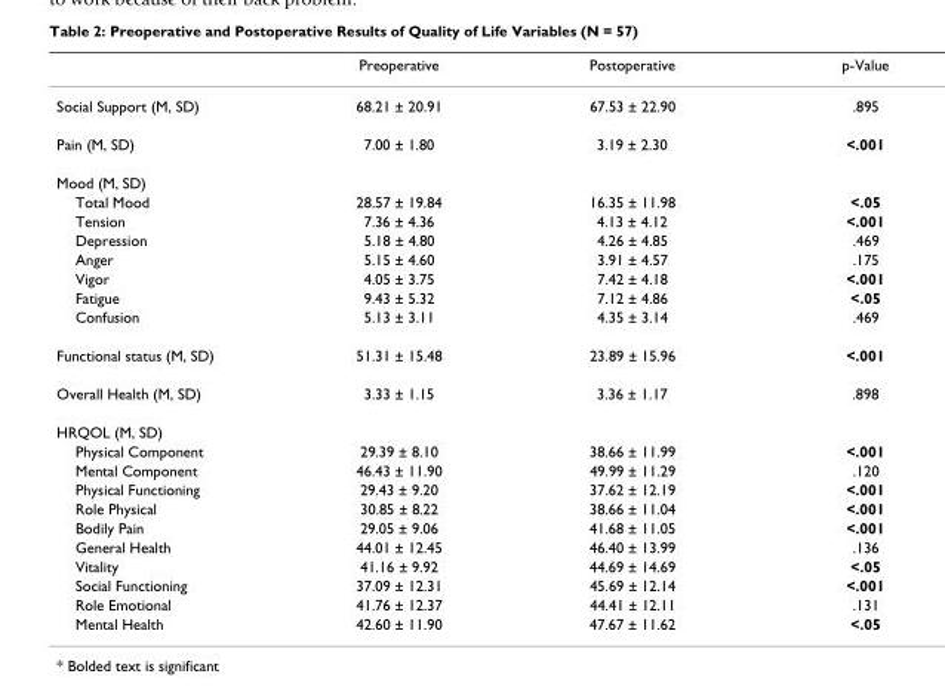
<table><thead><tr><td></td><td>Preoperative</td><td>Postoperative</td><td>p-Value</td></tr></thead><tbody><tr><td>Social Support (M, SD)</td><td>68.21 ± 20.91</td><td>67.53 ± 22.90</td><td>.895</td></tr><tr><td>Pain (M, SD)</td><td>7.00 ± 1.80</td><td>3.19 ± 2.30</td><td>&lt;.001</td></tr><tr><td colspan="4">Mood (M, SD)</td></tr><tr><td>Total Mood</td><td>28.57 ± 19.84</td><td>16.35 ± 11.98</td><td>&lt;.05</td></tr><tr><td>Tension</td><td>7.36 ± 4.36</td><td>4.13 ± 4.12</td><td>&lt;.001</td></tr><tr><td>Depression</td><td>5.18 ± 4.80</td><td>4.26 ± 4.85</td><td>.469</td></tr><tr><td>Anger</td><td>5.15 ± 4.60</td><td>3.91 ± 4.57</td><td>.175</td></tr><tr><td>Vigor</td><td>4.05 ± 3.75</td><td>7.42 ± 4.18</td><td>&lt;.001</td></tr><tr><td>Fatigue</td><td>9.43 ± 5.32</td><td>7.12 ± 4.86</td><td>&lt;.05</td></tr><tr><td>Confusion</td><td>5.13 ± 3.11</td><td>4.35 ± 3.14</td><td>.469</td></tr><tr><td>Functional status (M, SD)</td><td>51.31 ± 15.48</td><td>23.89 ± 15.96</td><td>&lt;.001</td></tr><tr><td>Overall Health (M, SD)</td><td>3.33 ± 1.15</td><td>3.36 ± 1.17</td><td>.898</td></tr><tr><td colspan="4">HRQOL (M, SD)</td></tr><tr><td>Physical Component</td><td>29.39 ± 8.10</td><td>38.66 ± 11.99</td><td>&lt;.001</td></tr><tr><td>Mental Component</td><td>46.43 ± 11.90</td><td>49.99 ± 11.29</td><td>.120</td></tr><tr><td>Physical Functioning</td><td>29.43 ± 9.20</td><td>37.62 ± 12.19</td><td>&lt;.001</td></tr><tr><td>Role Physical</td><td>30.85 ± 8.22</td><td>38.66 ± 11.04</td><td>&lt;.001</td></tr><tr><td>Bodily Pain</td><td>29.05 ± 9.06</td><td>41.68 ± 11.05</td><td>&lt;.001</td></tr><tr><td>General Health</td><td>44.01 ± 12.45</td><td>46.40 ± 13.99</td><td>.136</td></tr><tr><td>Vitality</td><td>41.16 ± 9.92</td><td>44.69 ± 14.69</td><td>&lt;.05</td></tr><tr><td>Social Functioning</td><td>37.09 ± 12.31</td><td>45.69 ± 12.14</td><td>&lt;.001</td></tr><tr><td>Role Emotional</td><td>41.76 ± 12.37</td><td>44.41 ± 12.11</td><td>.131</td></tr><tr><td>Mental Health</td><td>42.60 ± 11.90</td><td>47.67 ± 11.62</td><td>&lt;.05</td></tr></tbody></table>